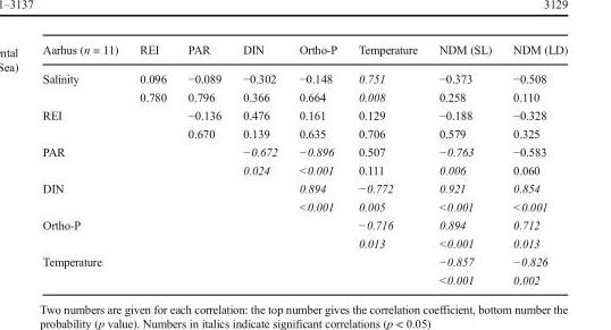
<table><thead><tr><td>Aarhus (n = 11)</td><td>REI</td><td>PAR</td><td>DIN</td><td>Ortho-P</td><td>Temperature</td><td>NDM (SL)</td><td>NDM (LD)</td></tr></thead><tbody><tr><td>Salinity</td><td>0.096 0.780</td><td>−0.089 0.796</td><td>−0.302 0.366</td><td>−0.148 0.664</td><td>0.751 0.008</td><td>−0.373 0.258</td><td>−0.508 0.110</td></tr><tr><td>REI</td><td></td><td>−0.136 0.670</td><td>0.476 0.139</td><td>0.161 0.635</td><td>0.129 0.706</td><td>−0.188 0.579</td><td>−0.328 0.325</td></tr><tr><td>PAR</td><td></td><td></td><td>−0.672 0.024</td><td>−0.896 &lt;0.001</td><td>0.507 0.111</td><td>−0.763 0.006</td><td>−0.583 0.060</td></tr><tr><td>DIN</td><td></td><td></td><td></td><td>0.894 &lt;0.001</td><td>−0.772 0.005</td><td>0.921 &lt;0.001</td><td>0.854 &lt;0.001</td></tr><tr><td>Ortho-P</td><td></td><td></td><td></td><td></td><td>−0.716 0.013</td><td>0.894 &lt;0.001</td><td>0.712 0.013</td></tr><tr><td>Temperature</td><td></td><td></td><td></td><td></td><td></td><td>−0.857 &lt;0.001</td><td>−0.826 0.002</td></tr></tbody></table>